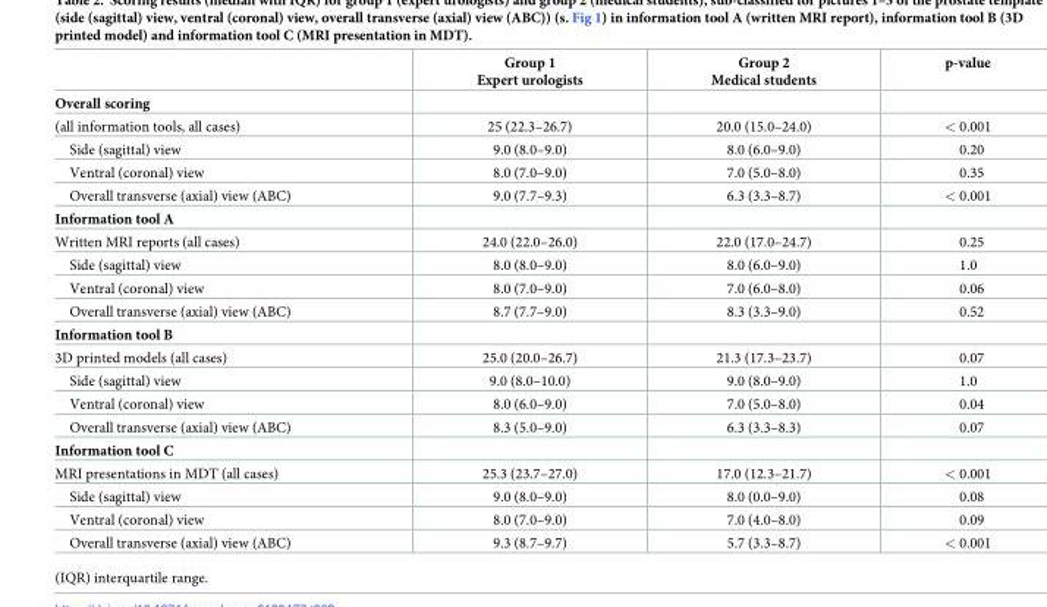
<table><thead><tr><td></td><td>Group 1 Expert urologists</td><td>Group 2 Medical students</td><td>p-value</td></tr></thead><tbody><tr><td colspan="4">Overall scoring</td></tr><tr><td>(all information tools, all cases)</td><td>25 (22.3–26.7)</td><td>20.0 (15.0–24.0)</td><td>&lt; 0.001</td></tr><tr><td>Side (sagittal) view</td><td>9.0 (8.0–9.0)</td><td>8.0 (6.0–9.0)</td><td>0.20</td></tr><tr><td>Ventral (coronal) view</td><td>8.0 (7.0–9.0)</td><td>7.0 (5.0–8.0)</td><td>0.35</td></tr><tr><td>Overall transverse (axial) view (ABC)</td><td>9.0 (7.7–9.3)</td><td>6.3 (3.3–8.7)</td><td>&lt; 0.001</td></tr><tr><td colspan="4">Information tool A</td></tr><tr><td>Written MRI reports (all cases)</td><td>24.0 (22.0–26.0)</td><td>22.0 (17.0–24.7)</td><td>0.25</td></tr><tr><td>Side (sagittal) view</td><td>8.0 (8.0–9.0)</td><td>8.0 (6.0–9.0)</td><td>1.0</td></tr><tr><td>Ventral (coronal) view</td><td>8.0 (7.0–9.0)</td><td>7.0 (6.0–8.0)</td><td>0.06</td></tr><tr><td>Overall transverse (axial) view (ABC)</td><td>8.7 (7.7–9.0)</td><td>8.3 (3.3–9.0)</td><td>0.52</td></tr><tr><td colspan="4">Information tool B</td></tr><tr><td>3D printed models (all cases)</td><td>25.0 (20.0–26.7)</td><td>21.3 (17.3–23.7)</td><td>0.07</td></tr><tr><td>Side (sagittal) view</td><td>9.0 (8.0–10.0)</td><td>9.0 (8.0–9.0)</td><td>1.0</td></tr><tr><td>Ventral (coronal) view</td><td>8.0 (6.0–9.0)</td><td>7.0 (5.0–8.0)</td><td>0.04</td></tr><tr><td>Overall transverse (axial) view (ABC)</td><td>8.3 (5.0–9.0)</td><td>6.3 (3.3–8.3)</td><td>0.07</td></tr><tr><td colspan="4">Information tool C</td></tr><tr><td>MRI presentations in MDT (all cases)</td><td>25.3 (23.7–27.0)</td><td>17.0 (12.3–21.7)</td><td>&lt; 0.001</td></tr><tr><td>Side (sagittal) view</td><td>9.0 (8.0–9.0)</td><td>8.0 (0.0–9.0)</td><td>0.08</td></tr><tr><td>Ventral (coronal) view</td><td>8.0 (7.0–9.0)</td><td>7.0 (4.0–8.0)</td><td>0.09</td></tr><tr><td>Overall transverse (axial) view (ABC)</td><td>9.3 (8.7–9.7)</td><td>5.7 (3.3–8.7)</td><td>&lt; 0.001</td></tr></tbody></table>